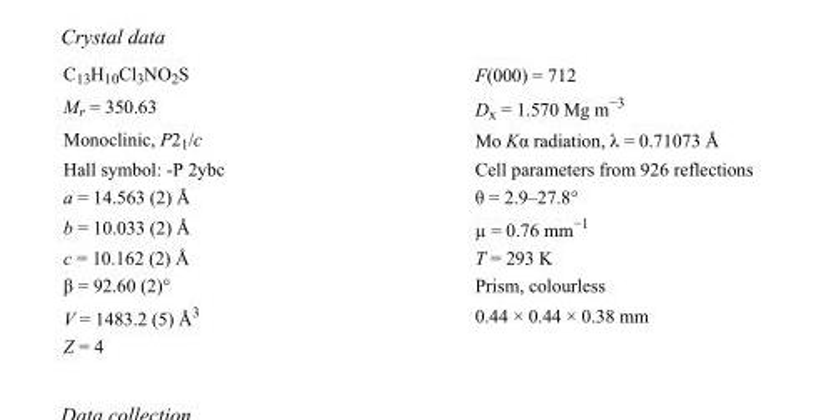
<table><tbody><tr><td>C<sub>13</sub>H<sub>10</sub>Cl<sub>3</sub>NO<sub>2</sub>S</td><td>F(000) = 712</td></tr><tr><td>M<sub>r</sub> = 350.63</td><td>D<sub>x</sub> = 1.570 Mg m<sup>−3</sup></td></tr><tr><td>Monoclinic, P2<sub>1</sub>/c</td><td>Mo Kα radiation, λ = 0.71073 Å</td></tr><tr><td>Hall symbol: -P 2ybc</td><td>Cell parameters from 926 reflections</td></tr><tr><td>a = 14.563 (2) Å</td><td>θ = 2.9–27.8°</td></tr><tr><td>b = 10.033 (2) Å</td><td>µ = 0.76 mm<sup>−1</sup></td></tr><tr><td>c = 10.162 (2) Å</td><td>T = 293 K</td></tr><tr><td>β = 92.60 (2)°</td><td>Prism, colourless</td></tr><tr><td>V = 1483.2 (5) Å<sup>3</sup></td><td>0.44 × 0.44 × 0.38 mm</td></tr><tr><td>Z = 4</td><td></td></tr></tbody></table>